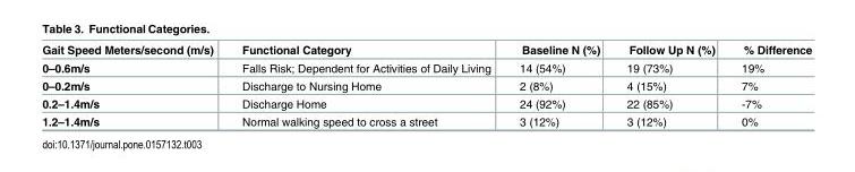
<table><thead><tr><td>Gait Speed Meters/second (m/s)</td><td>Functional Category</td><td>Baseline N (%)</td><td>Follow Up N (%)</td><td>% Difference</td></tr></thead><tbody><tr><td>0–0.6m/s</td><td>Falls Risk; Dependent for Activities of Daily Living</td><td>14 (54%)</td><td>19 (73%)</td><td>19%</td></tr><tr><td>0–0.2m/s</td><td>Discharge to Nursing Home</td><td>2 (8%)</td><td>4 (15%)</td><td>7%</td></tr><tr><td>0.2–1.4m/s</td><td>Discharge Home</td><td>24 (92%)</td><td>22 (85%)</td><td>-7%</td></tr><tr><td>1.2–1.4m/s</td><td>Normal walking speed to cross a street</td><td>3 (12%)</td><td>3 (12%)</td><td>0%</td></tr></tbody></table>